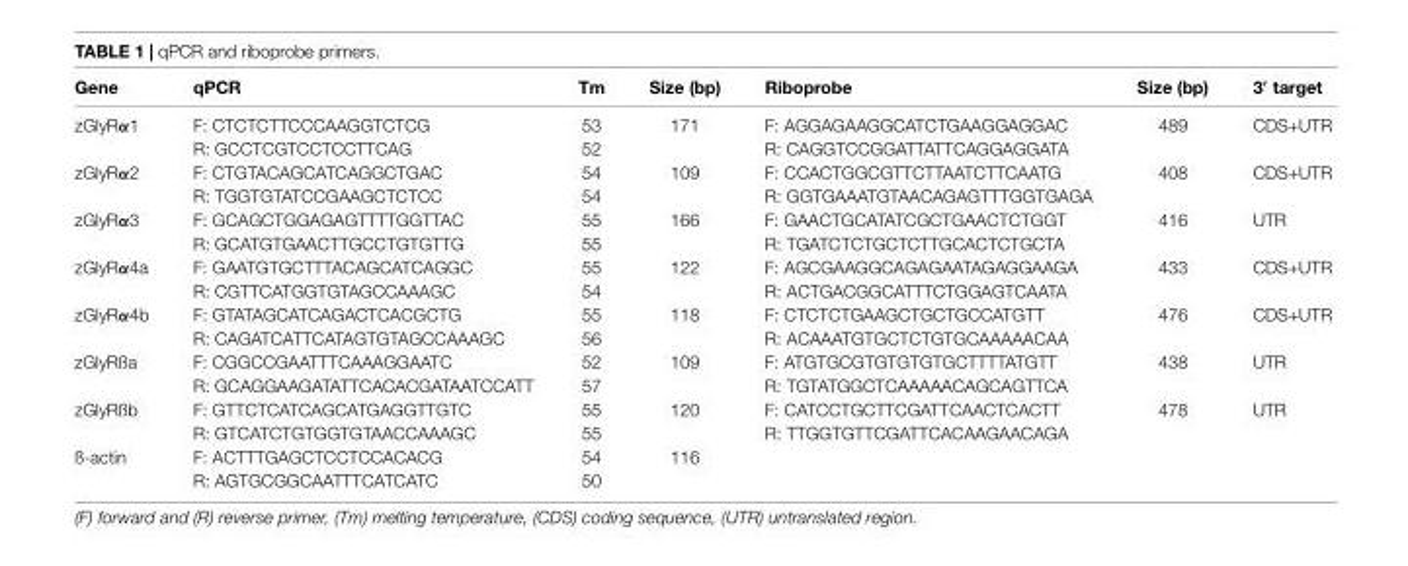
<table><thead><tr><td>Gene</td><td>qPCR</td><td>Tm</td><td>Size (bp)</td><td>Riboprobe</td><td>Size (bp)</td><td>3′ target</td></tr></thead><tbody><tr><td rowspan="2">zGlyRα1</td><td>F: CTCTCTTCCCAAGGTCTCG</td><td>53</td><td>171</td><td>F: AGGAGAAGGCATCTGAAGGAGGAC</td><td>489</td><td>CDS+UTR</td></tr><tr><td>R: GCCTCGTCCTCCTTCAG</td><td>52</td><td></td><td>R: CAGGTCCGGATTATTCAGGAGGATA</td><td></td><td></td></tr><tr><td rowspan="2">zGlyRα2</td><td>F: CTGTACAGCATCAGGCTGAC</td><td>54</td><td>109</td><td>F: CCACTGGCGTTCTTAATCTTCAATG</td><td>408</td><td>CDS+UTR</td></tr><tr><td>R: TGGTGTATCCGAAGCTCTCC</td><td>54</td><td></td><td>R: GGTGAAATGTAACAGAGTTTGGTGAGA</td><td></td><td></td></tr><tr><td rowspan="2">zGlyRα3</td><td>F: GCAGCTGGAGAGTTTTGGTTAC</td><td>55</td><td>166</td><td>F: GAACTGCATATCGCTGAACTCTGGT</td><td>416</td><td>UTR</td></tr><tr><td>R: GCATGTGAACTTGCCTGTGTTG</td><td>55</td><td></td><td>R: TGATCTCTGCTCTTGCACTCTGCTA</td><td></td><td></td></tr><tr><td rowspan="2">zGlyRα4a</td><td>F: GAATGTGCTTTACAGCATCAGGC</td><td>55</td><td>122</td><td>F: AGCGAAGGCAGAGAATAGAGGAAGA</td><td>433</td><td>CDS+UTR</td></tr><tr><td>R: CGTTCATGGTGTAGCCAAAGC</td><td>54</td><td></td><td>R: ACTGACGGCATTTCTGGAGTCAATA</td><td></td><td></td></tr><tr><td rowspan="2">zGlyRα4b</td><td>F: GTATAGCATCAGACTCACGCTG</td><td>55</td><td>118</td><td>F: CTCTCTGAAGCTGCTGCCATGTT</td><td>476</td><td>CDS+UTR</td></tr><tr><td>R: CAGATCATTCATAGTGTAGCCAAAGC</td><td>56</td><td></td><td>R: ACAAATGTGCTCTGTGCAAAAACAA</td><td></td><td></td></tr><tr><td rowspan="2">zGlyRßa</td><td>F: CGGCCGAATTTCAAAGGAATC</td><td>52</td><td>109</td><td>F: ATGTGCGTGTGTGTGCTTTTATGTT</td><td>438</td><td>UTR</td></tr><tr><td>R: GCAGGAAGATATTCACACGATAATCCATT</td><td>57</td><td></td><td>R: TGTATGGCTCAAAAACAGCAGTTCA</td><td></td><td></td></tr><tr><td rowspan="2">zGlyRßb</td><td>F: GTTCTCATCAGCATGAGGTTGTC</td><td>55</td><td>120</td><td>F: CATCCTGCTTCGATTCAACTCACTT</td><td>478</td><td>UTR</td></tr><tr><td>R: GTCATCTGTGGTGTAACCAAAGC</td><td>55</td><td></td><td>R: TTGGTGTTCGATTCACAAGAACAGA</td><td></td><td></td></tr><tr><td rowspan="2">ß-actin</td><td>F: ACTTTGAGCTCCTCCACACG</td><td>54</td><td>116</td><td></td><td></td><td></td></tr><tr><td>R: AGTGCGGCAATTTCATCATC</td><td>50</td><td></td><td></td><td></td><td></td></tr></tbody></table>